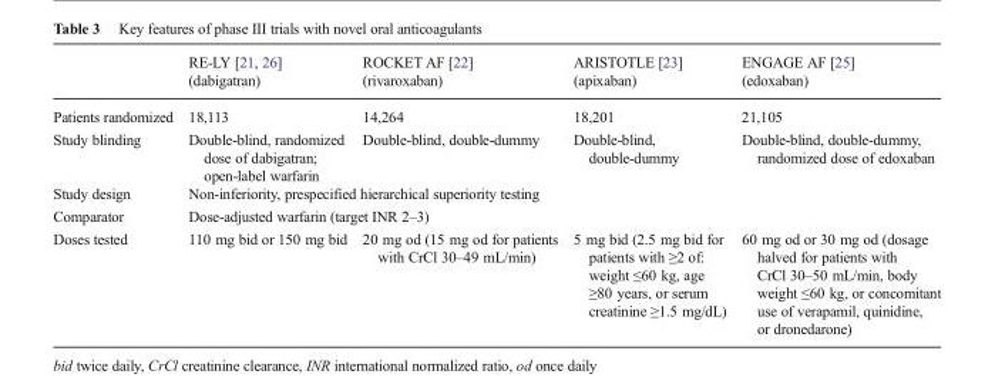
<table><thead><tr><td></td><td>RE-LY [21, 26] (dabigatran)</td><td>ROCKET AF [22] (rivaroxaban)</td><td>ARISTOTLE [23] (apixaban)</td><td>ENGAGE AF [25] (edoxaban)</td></tr></thead><tbody><tr><td>Patients randomized</td><td>18,113</td><td>14,264</td><td>18,201</td><td>21,105</td></tr><tr><td>Study blinding</td><td>Double-blind, randomized dose of dabigatran; open-label warfarin</td><td>Double-blind, double-dummy</td><td>Double-blind, double-dummy</td><td>Double-blind, double-dummy, randomized dose of edoxaban</td></tr><tr><td>Study design</td><td colspan="4">Non-inferiority, prespecified hierarchical superiority testing</td></tr><tr><td>Comparator</td><td colspan="4">Dose-adjusted warfarin (target INR 2–3)</td></tr><tr><td>Doses tested</td><td>110 mg bid or 150 mg bid</td><td>20 mg od (15 mg od for patients with CrCl 30–49 mL/min)</td><td>5 mg bid (2.5 mg bid for patients with ≥2 of: weight ≤60 kg, age ≥80 years, or serum creatinine ≥1.5 mg/dL)</td><td>60 mg od or 30 mg od (dosage halved for patients with CrCl 30–50 mL/min, body weight ≤60 kg, or concomitant use of verapamil, quinidine, or dronedarone)</td></tr></tbody></table>